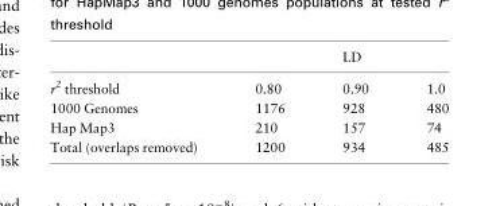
<table><thead><tr><td></td><td></td><td>LD</td><td></td></tr></thead><tbody><tr><td>r<sup>2</sup> threshold</td><td>0.80</td><td>0.90</td><td>1.0</td></tr><tr><td>1000 Genomes</td><td>1176</td><td>928</td><td>480</td></tr><tr><td>Hap Map3</td><td>210</td><td>157</td><td>74</td></tr><tr><td>Total (overlaps removed)</td><td>1200</td><td>934</td><td>485</td></tr></tbody></table>